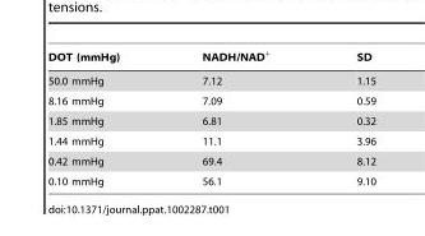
<table><thead><tr><td>DOT (mmHg)</td><td>NADH/NAD<sup>+</sup></td><td>SD</td></tr></thead><tbody><tr><td>50.0 mmHg</td><td>7.12</td><td>1.15</td></tr><tr><td>8.16 mmHg</td><td>7.09</td><td>0.59</td></tr><tr><td>1.85 mmHg</td><td>6.81</td><td>0.32</td></tr><tr><td>1.44 mmHg</td><td>11.1</td><td>3.96</td></tr><tr><td>0.42 mmHg</td><td>69.4</td><td>8.12</td></tr><tr><td>0.10 mmHg</td><td>56.1</td><td>9.10</td></tr></tbody></table>